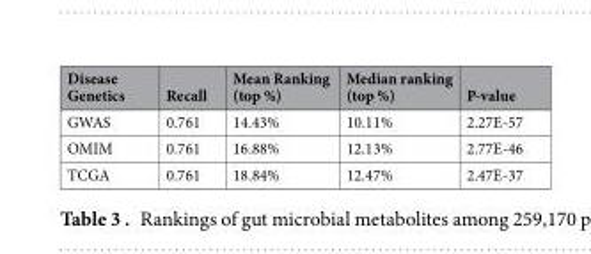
<table><thead><tr><td>Disease Genetics</td><td>Recall</td><td>Mean Ranking (top %)</td><td>Median ranking (top %)</td><td>P-value</td></tr></thead><tbody><tr><td>GWAS</td><td>0.761</td><td>14.43%</td><td>10.11%</td><td>2.27E-57</td></tr><tr><td>OMIM</td><td>0.761</td><td>16.88%</td><td>12.13%</td><td>2.77E-46</td></tr><tr><td>TCGA</td><td>0.761</td><td>18.84%</td><td>12.47%</td><td>2.47E-37</td></tr></tbody></table>